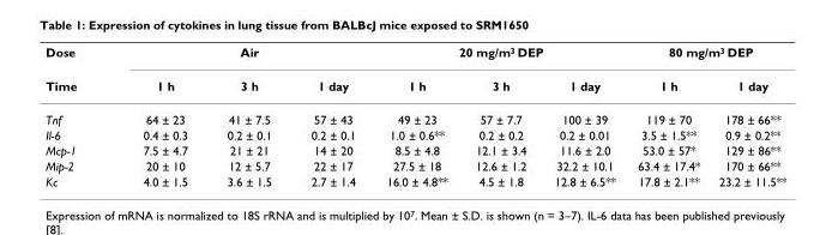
<table><thead><tr><td rowspan="2">Dose Time</td><td colspan="3">Air</td><td colspan="3">20 mg/m<sup>3</sup> DEP</td><td colspan="2">80 mg/m<sup>3</sup> DEP</td></tr><tr><td>1 h</td><td>3 h</td><td>1 day</td><td>1 h</td><td>3 h</td><td>1 day</td><td>1 h</td><td>1 day</td></tr></thead><tbody><tr><td>Tnf</td><td>64 ± 23</td><td>41 ± 7.5</td><td>57 ± 43</td><td>49 ± 23</td><td>57 ± 7.7</td><td>100 ± 39</td><td>119 ± 70</td><td>178 ± 66**</td></tr><tr><td>Il-6</td><td>0.4 ± 0.3</td><td>0.2 ± 0.1</td><td>0.2 ± 0.1</td><td>1.0 ± 0.6**</td><td>0.2 ± 0.2</td><td>0.2 ± 0.01</td><td>3.5 ± 1.5**</td><td>0.9 ± 0.2**</td></tr><tr><td>Mcp-1</td><td>7.5 ± 4.7</td><td>21 ± 21</td><td>14 ± 20</td><td>8.5 ± 4.8</td><td>12.1 ± 3.4</td><td>11.6 ± 2.0</td><td>53.0 ± 57*</td><td>129 ± 86**</td></tr><tr><td>Mip-2</td><td>20 ± 10</td><td>12 ± 5.7</td><td>22 ± 17</td><td>27.5 ± 18</td><td>12.6 ± 1.2</td><td>32.2 ± 10.1</td><td>63.4 ± 17.4*</td><td>170 ± 66**</td></tr><tr><td>Kc</td><td>4.0 ± 1.5</td><td>3.6 ± 1.5</td><td>2.7 ± 1.4</td><td>16.0 ± 4.8**</td><td>4.5 ± 1.8</td><td>12.8 ± 6.5**</td><td>17.8 ± 2.1**</td><td>23.2 ± 11.5**</td></tr></tbody></table>